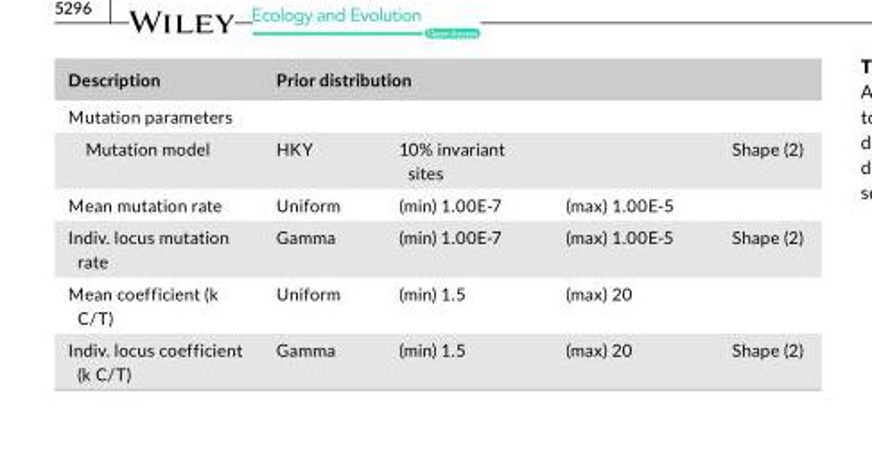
<table><thead><tr><td>Description</td><td colspan="4">Prior distribution</td></tr><tr><td colspan="5">Mutation parameters</td></tr><tr><td>Mutation model</td><td>HKY</td><td>10% invariant sites</td><td></td><td>Shape (2)</td></tr></thead><tbody><tr><td>Mean mutation rate</td><td>Uniform</td><td>(min) 1.00E- 7</td><td>(max) 1.00E- 5</td><td></td></tr><tr><td>Indiv. locus mutation rate</td><td>Gamma</td><td>(min) 1.00E- 7</td><td>(max) 1.00E- 5</td><td>Shape (2)</td></tr><tr><td>Mean coefficient (k C/T)</td><td>Uniform</td><td>(min) 1.5</td><td>(max) 20</td><td></td></tr><tr><td>Indiv. locus coefficient (k C/T)</td><td>Gamma</td><td>(min) 1.5</td><td>(max) 20</td><td>Shape (2)</td></tr></tbody></table>